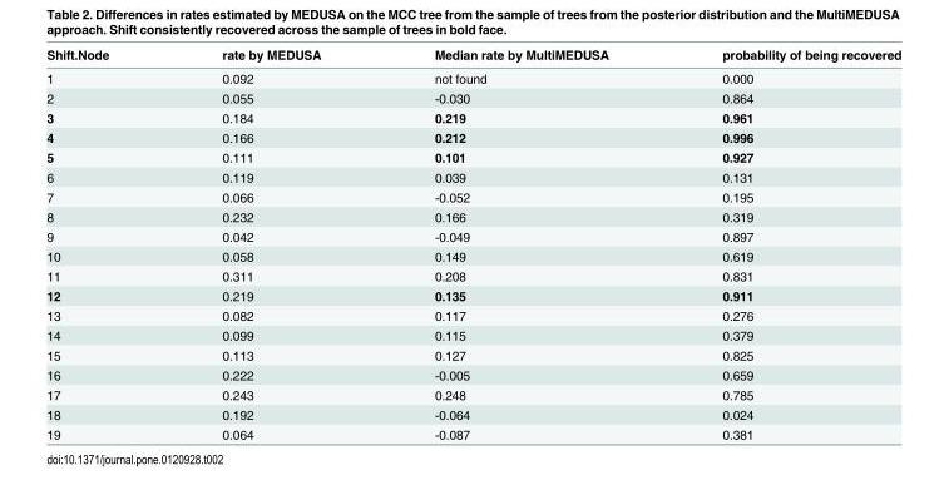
<table><thead><tr><td>Shift.Node</td><td>rate by MEDUSA</td><td>Median rate by MultiMEDUSA</td><td>probability of being recovered</td></tr></thead><tbody><tr><td>1</td><td>0.092</td><td>not found</td><td>0.000</td></tr><tr><td>2</td><td>0.055</td><td>-0.030</td><td>0.864</td></tr><tr><td>3</td><td>0.184</td><td>0.219</td><td>0.961</td></tr><tr><td>4</td><td>0.166</td><td>0.212</td><td>0.996</td></tr><tr><td>5</td><td>0.111</td><td>0.101</td><td>0.927</td></tr><tr><td>6</td><td>0.119</td><td>0.039</td><td>0.131</td></tr><tr><td>7</td><td>0.066</td><td>-0.052</td><td>0.195</td></tr><tr><td>8</td><td>0.232</td><td>0.166</td><td>0.319</td></tr><tr><td>9</td><td>0.042</td><td>-0.049</td><td>0.897</td></tr><tr><td>10</td><td>0.058</td><td>0.149</td><td>0.619</td></tr><tr><td>11</td><td>0.311</td><td>0.208</td><td>0.831</td></tr><tr><td>12</td><td>0.219</td><td>0.135</td><td>0.911</td></tr><tr><td>13</td><td>0.082</td><td>0.117</td><td>0.276</td></tr><tr><td>14</td><td>0.099</td><td>0.115</td><td>0.379</td></tr><tr><td>15</td><td>0.113</td><td>0.127</td><td>0.825</td></tr><tr><td>16</td><td>0.222</td><td>-0.005</td><td>0.659</td></tr><tr><td>17</td><td>0.243</td><td>0.248</td><td>0.785</td></tr><tr><td>18</td><td>0.192</td><td>-0.064</td><td>0.024</td></tr><tr><td>19</td><td>0.064</td><td>-0.087</td><td>0.381</td></tr></tbody></table>